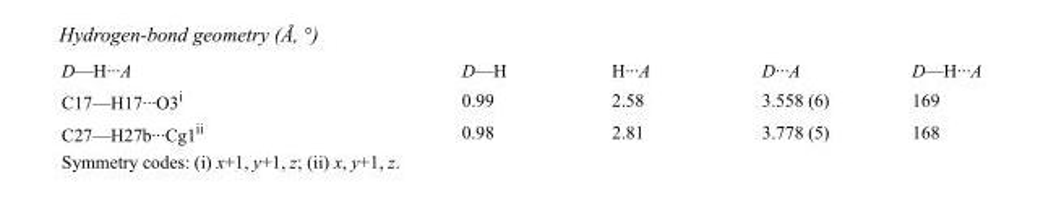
<table><tbody><tr><td>D—H···A</td><td>D—H</td><td>H···A</td><td>D···A</td><td>D—H···A</td></tr><tr><td>C17—H17···O3<sup>i</sup></td><td>0.99</td><td>2.58</td><td>3.558 (6)</td><td>169</td></tr><tr><td>C27—H27b···Cg1<sup>ii</sup></td><td>0.98</td><td>2.81</td><td>3.778 (5)</td><td>168</td></tr></tbody></table>